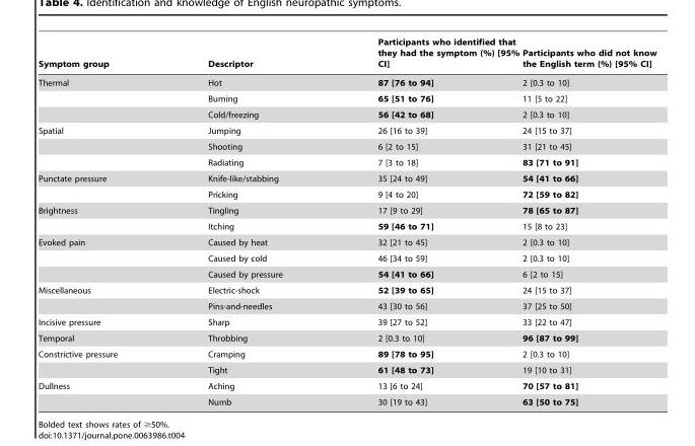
<table><thead><tr><td>Symptom group</td><td>Descriptor</td><td>Participants who identified that they had the symptom (%) [95% CI]</td><td>Participants who did not know the English term (%) [95% CI]</td></tr></thead><tbody><tr><td rowspan="3">Thermal</td><td>Hot</td><td>87 [76 to 94]</td><td>2 [0.3 to 10]</td></tr><tr><td>Burning</td><td>65 [51 to 76]</td><td>11 [5 to 22]</td></tr><tr><td>Cold/freezing</td><td>56 [42 to 68]</td><td>2 [0.3 to 10]</td></tr><tr><td rowspan="3">Spatial</td><td>Jumping</td><td>26 [16 to 39]</td><td>24 [15 to 37]</td></tr><tr><td>Shooting</td><td>6 [2 to 15]</td><td>31 [21 to 45]</td></tr><tr><td>Radiating</td><td>7 [3 to 18]</td><td>83 [71 to 91]</td></tr><tr><td rowspan="2">Punctate pressure</td><td>Knife-like/stabbing</td><td>35 [24 to 49]</td><td>54 [41 to 66]</td></tr><tr><td>Pricking</td><td>9 [4 to 20]</td><td>72 [59 to 82]</td></tr><tr><td rowspan="2">Brightness</td><td>Tingling</td><td>17 [9 to 29]</td><td>78 [65 to 87]</td></tr><tr><td>Itching</td><td>59 [46 to 71]</td><td>15 [8 to 23]</td></tr><tr><td rowspan="3">Evoked pain</td><td>Caused by heat</td><td>32 [21 to 45]</td><td>2 [0.3 to 10]</td></tr><tr><td>Caused by cold</td><td>46 [34 to 59]</td><td>2 [0.3 to 10]</td></tr><tr><td>Caused by pressure</td><td>54 [41 to 66]</td><td>6 [2 to 15]</td></tr><tr><td rowspan="2">Miscellaneous</td><td>Electric-shock</td><td>52 [39 to 65]</td><td>24 [15 to 37]</td></tr><tr><td>Pins-and-needles</td><td>43 [30 to 56]</td><td>37 [25 to 50]</td></tr><tr><td>Incisive pressure</td><td>Sharp</td><td>39 [27 to 52]</td><td>33 [22 to 47]</td></tr><tr><td>Temporal</td><td>Throbbing</td><td>2 [0.3 to 10]</td><td>96 [87 to 99]</td></tr><tr><td rowspan="2">Constrictive pressure</td><td>Cramping</td><td>89 [78 to 95]</td><td>2 [0.3 to 10]</td></tr><tr><td>Tight</td><td>61 [48 to 73]</td><td>19 [10 to 31]</td></tr><tr><td rowspan="2">Dullness</td><td>Aching</td><td>13 [6 to 24]</td><td>70 [57 to 81]</td></tr><tr><td>Numb</td><td>30 [19 to 43]</td><td>63 [50 to 75]</td></tr></tbody></table>